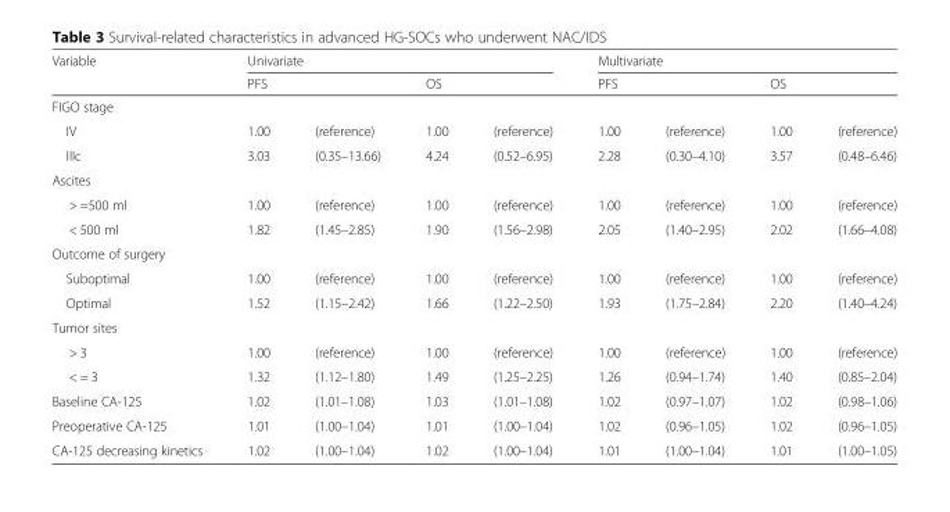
<table><thead><tr><td rowspan="2">Variable</td><td colspan="4">Univariate</td><td colspan="4">Multivariate</td></tr><tr><td colspan="2">PFS</td><td colspan="2">OS</td><td colspan="2">PFS</td><td colspan="2">OS</td></tr><tr><td colspan="9">FIGO stage</td></tr><tr><td>IV</td><td>1.00</td><td>(reference)</td><td>1.00</td><td>(reference)</td><td>1.00</td><td>(reference)</td><td>1.00</td><td>(reference)</td></tr></thead><tbody><tr><td>IIIc</td><td>3.03</td><td>(0.35–13.66)</td><td>4.24</td><td>(0.52–6.95)</td><td>2.28</td><td>(0.30–4.10)</td><td>3.57</td><td>(0.48–6.46)</td></tr><tr><td colspan="9">Ascites</td></tr><tr><td>&gt; =500 ml</td><td>1.00</td><td>(reference)</td><td>1.00</td><td>(reference)</td><td>1.00</td><td>(reference)</td><td>1.00</td><td>(reference)</td></tr><tr><td>&lt; 500 ml</td><td>1.82</td><td>(1.45–2.85)</td><td>1.90</td><td>(1.56–2.98)</td><td>2.05</td><td>(1.40–2.95)</td><td>2.02</td><td>(1.66–4.08)</td></tr><tr><td colspan="9">Outcome of surgery</td></tr><tr><td>Suboptimal</td><td>1.00</td><td>(reference)</td><td>1.00</td><td>(reference)</td><td>1.00</td><td>(reference)</td><td>1.00</td><td>(reference)</td></tr><tr><td>Optimal</td><td>1.52</td><td>(1.15–2.42)</td><td>1.66</td><td>(1.22–2.50)</td><td>1.93</td><td>(1.75–2.84)</td><td>2.20</td><td>(1.40–4.24)</td></tr><tr><td colspan="9">Tumor sites</td></tr><tr><td>&gt; 3</td><td>1.00</td><td>(reference)</td><td>1.00</td><td>(reference)</td><td>1.00</td><td>(reference)</td><td>1.00</td><td>(reference)</td></tr><tr><td>&lt; = 3</td><td>1.32</td><td>(1.12–1.80)</td><td>1.49</td><td>(1.25–2.25)</td><td>1.26</td><td>(0.94–1.74)</td><td>1.40</td><td>(0.85–2.04)</td></tr><tr><td>Baseline CA-125</td><td>1.02</td><td>(1.01–1.08)</td><td>1.03</td><td>(1.01–1.08)</td><td>1.02</td><td>(0.97–1.07)</td><td>1.02</td><td>(0.98–1.06)</td></tr><tr><td>Preoperative CA-125</td><td>1.01</td><td>(1.00–1.04)</td><td>1.01</td><td>(1.00–1.04)</td><td>1.02</td><td>(0.96–1.05)</td><td>1.02</td><td>(0.96–1.05)</td></tr><tr><td>CA-125 decreasing kinetics</td><td>1.02</td><td>(1.00–1.04)</td><td>1.02</td><td>(1.00–1.04)</td><td>1.01</td><td>(1.00–1.04)</td><td>1.01</td><td>(1.00–1.05)</td></tr></tbody></table>